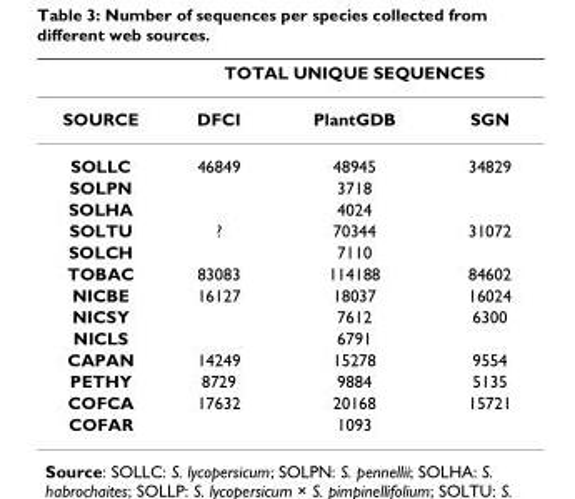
<table><thead><tr><td rowspan="2">SOURCE</td><td colspan="3">TOTAL UNIQUE SEQUENCES</td></tr><tr><td>DFCI</td><td>PlantGDB</td><td>SGN</td></tr></thead><tbody><tr><td>SOLLC</td><td>46849</td><td>48945</td><td>34829</td></tr><tr><td>SOLPN</td><td></td><td>3718</td><td></td></tr><tr><td>SOLHA</td><td></td><td>4024</td><td></td></tr><tr><td>SOLTU</td><td>?</td><td>70344</td><td>31072</td></tr><tr><td>SOLCH</td><td></td><td>7110</td><td></td></tr><tr><td>TOBAC</td><td>83083</td><td>114188</td><td>84602</td></tr><tr><td>NICBE</td><td>16127</td><td>18037</td><td>16024</td></tr><tr><td>NICSY</td><td></td><td>7612</td><td>6300</td></tr><tr><td>NICLS</td><td></td><td>6791</td><td></td></tr><tr><td>CAPAN</td><td>14249</td><td>15278</td><td>9554</td></tr><tr><td>PETHY</td><td>8729</td><td>9884</td><td>5135</td></tr><tr><td>COFCA</td><td>17632</td><td>20168</td><td>15721</td></tr><tr><td>COFAR</td><td></td><td>1093</td><td></td></tr></tbody></table>